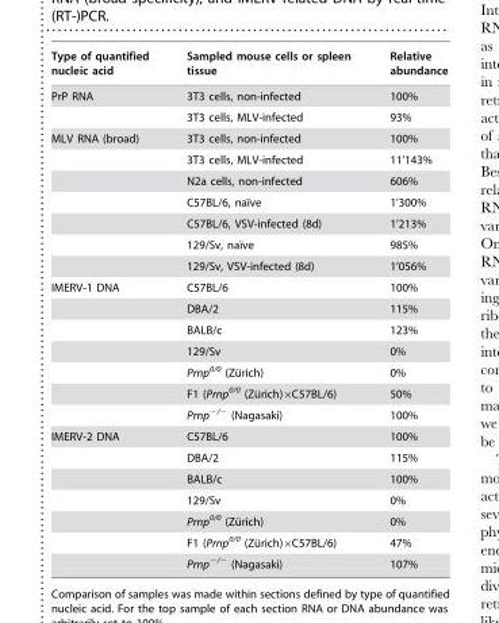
<table><thead><tr><td>Type of quantified nucleic acid</td><td>Sampled mouse cells or spleen tissue</td><td>Relative abundance</td></tr></thead><tbody><tr><td rowspan="2">PrP RNA</td><td>3T3 cells, non-infected</td><td>100%</td></tr><tr><td>3T3 cells, MLV-infected</td><td>93%</td></tr><tr><td rowspan="7">MLV RNA (broad)</td><td>3T3 cells, non-infected</td><td>100%</td></tr><tr><td>3T3 cells, MLV-infected</td><td>11’143%</td></tr><tr><td>N2a cells, non-infected</td><td>606%</td></tr><tr><td>C57BL/6, naı¨ve</td><td>1’300%</td></tr><tr><td>C57BL/6, VSV-infected (8d)</td><td>1’213%</td></tr><tr><td>129/Sv, naı¨ve</td><td>985%</td></tr><tr><td>129/Sv, VSV-infected (8d)</td><td>1’056%</td></tr><tr><td rowspan="7">IMERV-1 DNA</td><td>C57BL/6</td><td>100%</td></tr><tr><td>DBA/2</td><td>115%</td></tr><tr><td>BALB/c</td><td>123%</td></tr><tr><td>129/Sv</td><td>0%</td></tr><tr><td>Prnp0/0 (Zu¨rich)</td><td>0%</td></tr><tr><td>F1 (Prnp0/0 (Zu¨rich)6C57BL/6)</td><td>50%</td></tr><tr><td>Prnp<sup>−/−</sup> (Nagasaki)</td><td>100%</td></tr><tr><td rowspan="7">IMERV-2 DNA</td><td>C57BL/6</td><td>100%</td></tr><tr><td>DBA/2</td><td>115%</td></tr><tr><td>BALB/c</td><td>100%</td></tr><tr><td>129/Sv</td><td>0%</td></tr><tr><td>Prnp0/0 (Zu¨rich)</td><td>0%</td></tr><tr><td>F1 (Prnp0/0 (Zu¨rich)6C57BL/6)</td><td>47%</td></tr><tr><td>Prnp<sup>−/−</sup> (Nagasaki)</td><td>107%</td></tr></tbody></table>